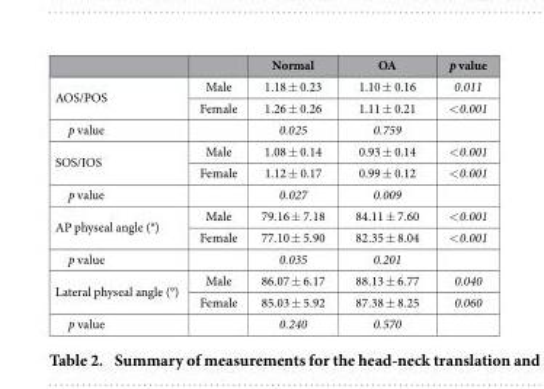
<table><thead><tr><td></td><td></td><td>Normal</td><td>OA</td><td>p value</td></tr></thead><tbody><tr><td rowspan="2">AOS/POS</td><td>Male</td><td>1.18 ± 0.23</td><td>1.10 ± 0.16</td><td>0.011</td></tr><tr><td>Female</td><td>1.26 ± 0.26</td><td>1.11 ± 0.21</td><td>&lt; 0.001</td></tr><tr><td>p value</td><td></td><td>0.025</td><td>0.759</td><td></td></tr><tr><td rowspan="2">SOS/IOS</td><td>Male</td><td>1.08 ± 0.14</td><td>0.93 ± 0.14</td><td>&lt; 0.001</td></tr><tr><td>Female</td><td>1.12 ± 0.17</td><td>0.99 ± 0.12</td><td>&lt; 0.001</td></tr><tr><td>p value</td><td></td><td>0.027</td><td>0.009</td><td></td></tr><tr><td rowspan="2">AP physeal angle (°)</td><td>Male</td><td>79.16 ± 7.18</td><td>84.11 ± 7.60</td><td>&lt; 0.001</td></tr><tr><td>Female</td><td>77.10 ± 5.90</td><td>82.35 ± 8.04</td><td>&lt; 0.001</td></tr><tr><td>p value</td><td></td><td>0.035</td><td>0.201</td><td></td></tr><tr><td rowspan="2">Lateral physeal angle (°)</td><td>Male</td><td>86.07 ± 6.17</td><td>88.13 ± 6.77</td><td>0.040</td></tr><tr><td>Female</td><td>85.03 ± 5.92</td><td>87.38 ± 8.25</td><td>0.060</td></tr><tr><td>p value</td><td></td><td>0.240</td><td>0.570</td><td></td></tr></tbody></table>